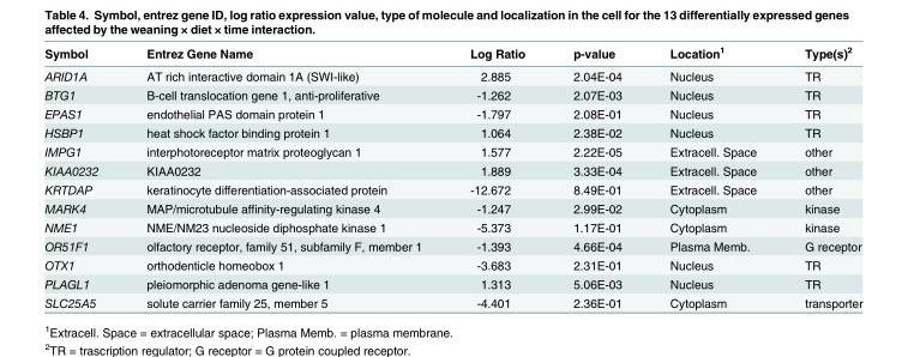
<table><thead><tr><td>Symbol</td><td>Entrez Gene Name</td><td>Log Ratio</td><td>p-value</td><td>Location<sup>1</sup></td><td>Type(s)<sup>2</sup></td></tr></thead><tbody><tr><td>ARID1A</td><td>AT rich interactive domain 1A (SWI-like)</td><td>2.885</td><td>2.04E-04</td><td>Nucleus</td><td>TR</td></tr><tr><td>BTG1</td><td>B-cell translocation gene 1, anti-proliferative</td><td>-1.262</td><td>2.07E-03</td><td>Nucleus</td><td>TR</td></tr><tr><td>EPAS1</td><td>endothelial PAS domain protein 1</td><td>-1.797</td><td>2.08E-01</td><td>Nucleus</td><td>TR</td></tr><tr><td>HSBP1</td><td>heat shock factor binding protein 1</td><td>1.064</td><td>2.38E-02</td><td>Nucleus</td><td>TR</td></tr><tr><td>IMPG1</td><td>interphotoreceptor matrix proteoglycan 1</td><td>1.577</td><td>2.22E-05</td><td>Extracell. Space</td><td>other</td></tr><tr><td>KIAA0232</td><td>KIAA0232</td><td>1.889</td><td>3.33E-04</td><td>Extracell. Space</td><td>other</td></tr><tr><td>KRTDAP</td><td>keratinocyte differentiation-associated protein</td><td>-12.672</td><td>8.49E-01</td><td>Extracell. Space</td><td>other</td></tr><tr><td>MARK4</td><td>MAP/microtubule affinity-regulating kinase 4</td><td>-1.247</td><td>2.99E-02</td><td>Cytoplasm</td><td>kinase</td></tr><tr><td>NME1</td><td>NME/NM23 nucleoside diphosphate kinase 1</td><td>-5.373</td><td>1.17E-01</td><td>Cytoplasm</td><td>kinase</td></tr><tr><td>OR51F1</td><td>olfactory receptor, family 51, subfamily F, member 1</td><td>-1.393</td><td>4.66E-04</td><td>Plasma Memb.</td><td>G receptor</td></tr><tr><td>OTX1</td><td>orthodenticle homeobox 1</td><td>-3.683</td><td>2.31E-01</td><td>Nucleus</td><td>TR</td></tr><tr><td>PLAGL1</td><td>pleiomorphic adenoma gene-like 1</td><td>1.313</td><td>5.06E-03</td><td>Nucleus</td><td>TR</td></tr><tr><td>SLC25A5</td><td>solute carrier family 25, member 5</td><td>-4.401</td><td>2.36E-01</td><td>Cytoplasm</td><td>transporter</td></tr></tbody></table>